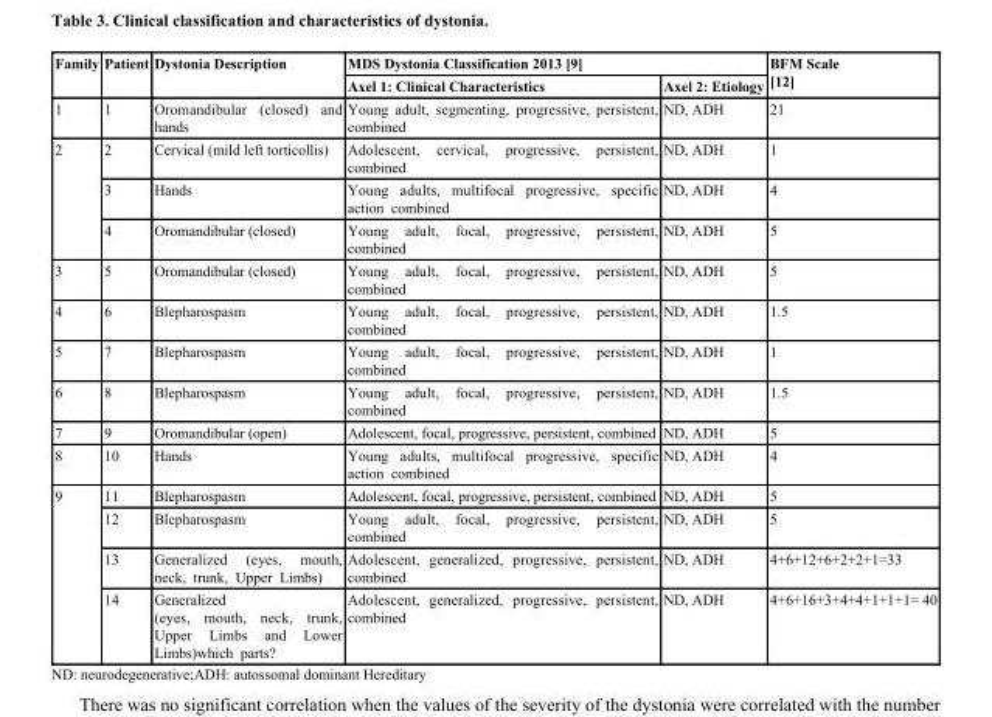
<table><thead><tr><td rowspan="2">Family</td><td rowspan="2">Patient</td><td rowspan="2">Dystonia Description</td><td colspan="2">MDS Dystonia Classification 2013 [9]</td><td rowspan="2">BFM Scale [12]</td></tr><tr><td>Axel 1: Clinical Characteristics</td><td>Axel 2: Etiology</td></tr></thead><tbody><tr><td>1</td><td>1</td><td>Oromandibular (closed) and hands</td><td>Young adult, segmenting, progressive, persistent, combined</td><td>ND, ADH</td><td>21</td></tr><tr><td rowspan="3">2</td><td>2</td><td>Cervical (mild left torticollis)</td><td>Adolescent, cervical, progressive, persistent, combined</td><td>ND, ADH</td><td>1</td></tr><tr><td>3</td><td>Hands</td><td>Young adults, multifocal progressive, specific action combined</td><td>ND, ADH</td><td>4</td></tr><tr><td>4</td><td>Oromandibular (closed)</td><td>Young adult, focal, progressive, persistent, combined</td><td>ND, ADH</td><td>5</td></tr><tr><td>3</td><td>5</td><td>Oromandibular (closed)</td><td>Young adult, focal, progressive, persistent, combined</td><td>ND, ADH</td><td>5</td></tr><tr><td>4</td><td>6</td><td>Blepharospasm</td><td>Young adult, focal, progressive, persistent, combined</td><td>ND, ADH</td><td>1.5</td></tr><tr><td>5</td><td>7</td><td>Blepharospasm</td><td>Young adult, focal, progressive, persistent, combined</td><td>ND, ADH</td><td>1</td></tr><tr><td>6</td><td>8</td><td>Blepharospasm</td><td>Young adult, focal, progressive, persistent, combined</td><td>ND, ADH</td><td>1.5</td></tr><tr><td>7</td><td>9</td><td>Oromandibular (open)</td><td>Adolescent, focal, progressive, persistent, combined</td><td>ND, ADH</td><td>5</td></tr><tr><td>8</td><td>10</td><td>Hands</td><td>Young adults, multifocal progressive, specific action combined</td><td>ND, ADH</td><td>4</td></tr><tr><td rowspan="4">9</td><td>11</td><td>Blepharospasm</td><td>Adolescent, focal, progressive, persistent, combined</td><td>ND, ADH</td><td>5</td></tr><tr><td>12</td><td>Blepharospasm</td><td>Young adult, focal, progressive, persistent, combined</td><td>ND, ADH</td><td>5</td></tr><tr><td>13</td><td>Generalized (eyes, mouth, neck, trunk, Upper Limbs)</td><td>Adolescent, generalized, progressive, persistent, combined</td><td>ND, ADH</td><td>4+6+12+6+2+2+1=33</td></tr><tr><td>14</td><td>Generalized (eyes, mouth, neck, trunk, Upper Limbs and Lower Limbs)which parts?</td><td>Adolescent, generalized, progressive, persistent, combined</td><td>ND, ADH</td><td>4+6+16+3+4+4+1+1+1= 40</td></tr></tbody></table>